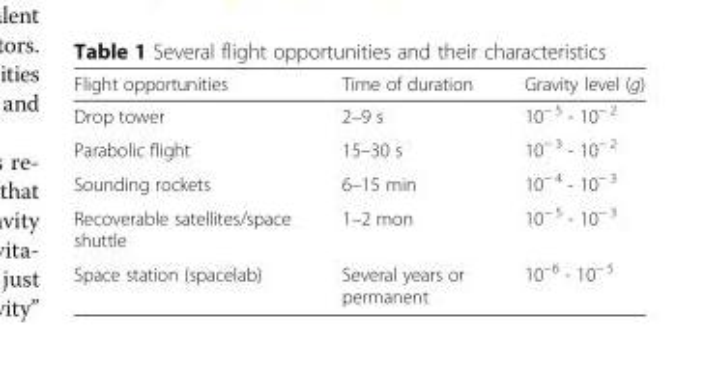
<table><thead><tr><td>Flight opportunities</td><td>Time of duration</td><td>Gravity level (g)</td></tr></thead><tbody><tr><td>Drop tower</td><td>2–9 s</td><td>10<sup>− 5</sup> - 10<sup>− 2</sup></td></tr><tr><td>Parabolic flight</td><td>15–30 s</td><td>10<sup>− 3</sup> - 10<sup>− 2</sup></td></tr><tr><td>Sounding rockets</td><td>6–15 min</td><td>10<sup>− 4</sup> - 10<sup>− 3</sup></td></tr><tr><td>Recoverable satellites/space shuttle</td><td>1–2 mon</td><td>10<sup>− 5</sup> - 10<sup>− 3</sup></td></tr><tr><td>Space station (spacelab)</td><td>Several years or permanent</td><td>10<sup>−6</sup> - 10<sup>− 5</sup></td></tr></tbody></table>